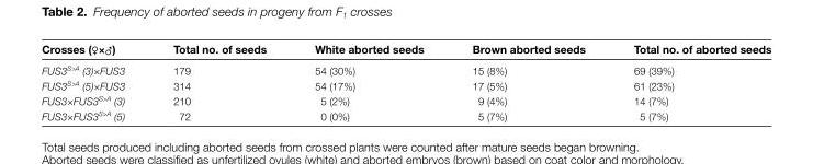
<table><thead><tr><td>Crosses (♀×♂)</td><td>Total no. of seeds</td><td>White aborted seeds</td><td>Brown aborted seeds</td><td>Total no. of aborted seeds</td></tr></thead><tbody><tr><td>FUS3<sup>S&gt;A</sup> (3)×FUS3</td><td>179</td><td>54 (30%)</td><td>15 (8%)</td><td>69 (39%)</td></tr><tr><td>FUS3<sup>S&gt;A</sup> (5)×FUS3</td><td>314</td><td>54 (17%)</td><td>17 (5%)</td><td>61 (23%)</td></tr><tr><td>FUS3×FUS3<sup>S&gt;A</sup> (3)</td><td>210</td><td>5 (2%)</td><td>9 (4%)</td><td>14 (7%)</td></tr><tr><td>FUS3×FUS3<sup>S&gt;A</sup> (5)</td><td>72</td><td>0 (0%)</td><td>5 (7%)</td><td>5 (7%)</td></tr></tbody></table>